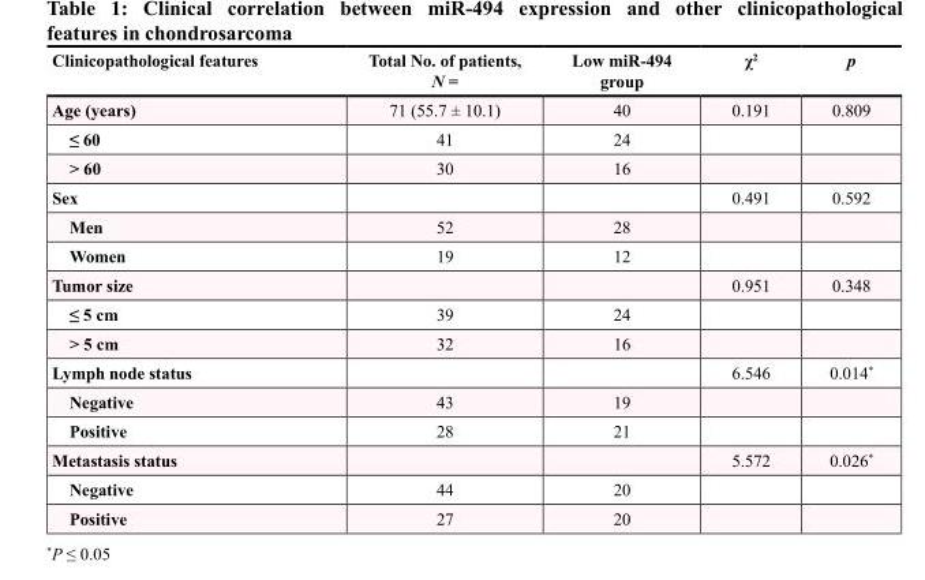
<table><thead><tr><td>Clinicopathological features</td><td>Total No. of patients, N =</td><td>Low miR-494 group</td><td>χ<sup>2</sup></td><td>p</td></tr></thead><tbody><tr><td>Age (years)</td><td>71 (55.7 ± 10.1)</td><td>40</td><td>0.191</td><td>0.809</td></tr><tr><td>≤ 60</td><td>41</td><td>24</td><td></td><td></td></tr><tr><td>&gt; 60</td><td>30</td><td>16</td><td></td><td></td></tr><tr><td>Sex</td><td></td><td></td><td>0.491</td><td>0.592</td></tr><tr><td>Men</td><td>52</td><td>28</td><td></td><td></td></tr><tr><td>Women</td><td>19</td><td>12</td><td></td><td></td></tr><tr><td>Tumor size</td><td></td><td></td><td>0.951</td><td>0.348</td></tr><tr><td>≤ 5 cm</td><td>39</td><td>24</td><td></td><td></td></tr><tr><td>&gt; 5 cm</td><td>32</td><td>16</td><td></td><td></td></tr><tr><td>Lymph node status</td><td></td><td></td><td>6.546</td><td>0.014*</td></tr><tr><td>Negative</td><td>43</td><td>19</td><td></td><td></td></tr><tr><td>Positive</td><td>28</td><td>21</td><td></td><td></td></tr><tr><td>Metastasis status</td><td></td><td></td><td>5.572</td><td>0.026*</td></tr><tr><td>Negative</td><td>44</td><td>20</td><td></td><td></td></tr><tr><td>Positive</td><td>27</td><td>20</td><td></td><td></td></tr></tbody></table>